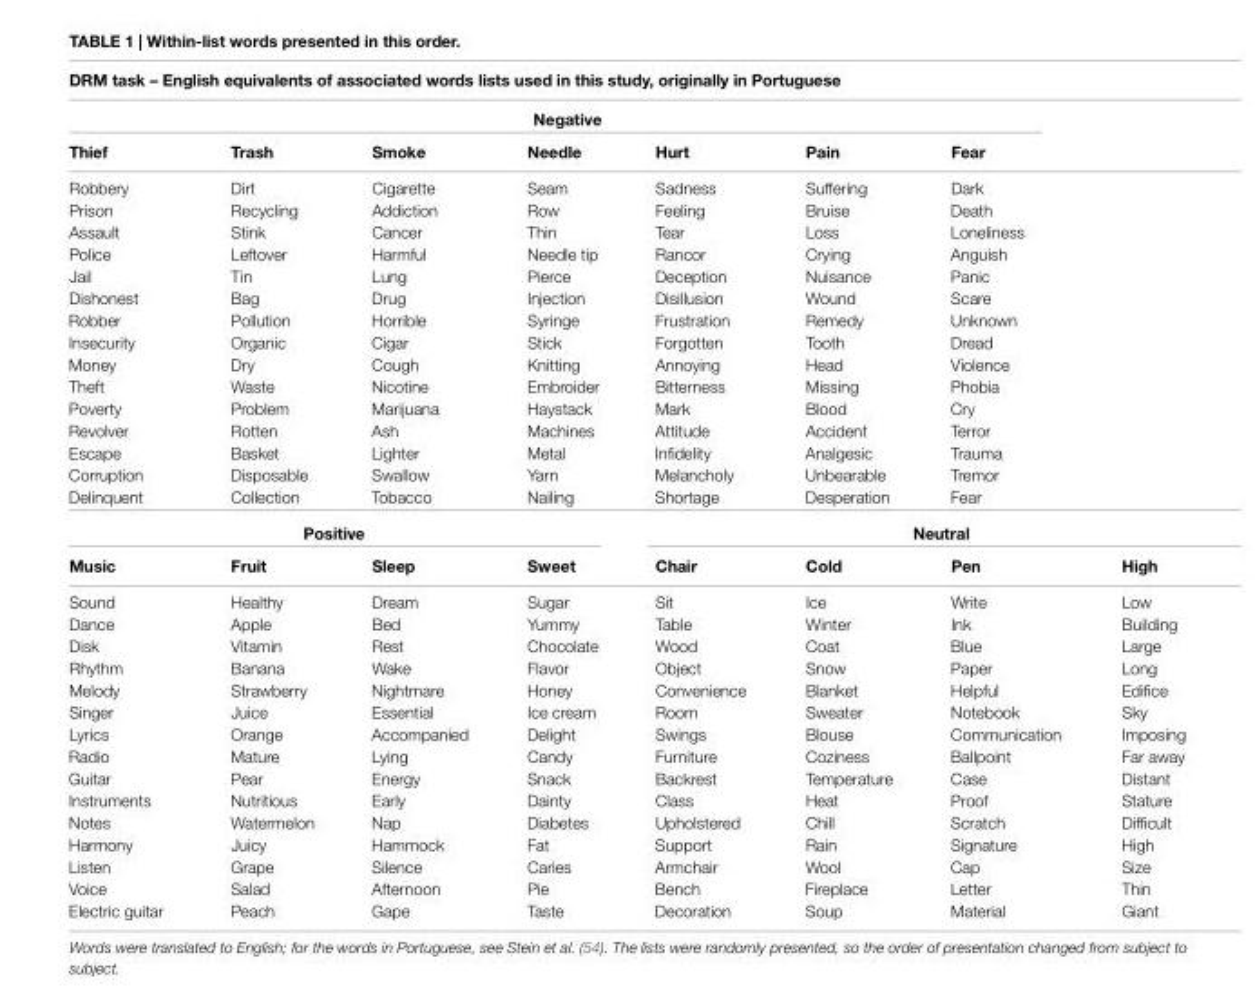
<table><thead><tr><td colspan="8">DrM task – english equivalents of associated words lists used in this study, originally in Portuguese</td></tr><tr><td colspan="7">negative</td><td rowspan="2"></td></tr><tr><td>Thief</td><td>Trash</td><td>smoke</td><td>needle</td><td>hurt</td><td>Pain</td><td>Fear</td></tr></thead><tbody><tr><td>Robbery</td><td>Dirt</td><td>Cigarette</td><td>Seam</td><td>Sadness</td><td>Suffering</td><td>Dark</td><td></td></tr><tr><td>Prison</td><td>Recycling</td><td>Addiction</td><td>Row</td><td>Feeling</td><td>Bruise</td><td>Death</td><td></td></tr><tr><td>Assault</td><td>Stink</td><td>Cancer</td><td>Thin</td><td>Tear</td><td>Loss</td><td>Loneliness</td><td></td></tr><tr><td>Police</td><td>Leftover</td><td>Harmful</td><td>Needle tip</td><td>Rancor</td><td>Crying</td><td>Anguish</td><td></td></tr><tr><td>Jail</td><td>Tin</td><td>Lung</td><td>Pierce</td><td>Deception</td><td>Nuisance</td><td>Panic</td><td></td></tr><tr><td>Dishonest</td><td>Bag</td><td>Drug</td><td>Injection</td><td>Disillusion</td><td>Wound</td><td>Scare</td><td></td></tr><tr><td>Robber</td><td>Pollution</td><td>Horrible</td><td>Syringe</td><td>Frustration</td><td>Remedy</td><td>Unknown</td><td></td></tr><tr><td>Insecurity</td><td>Organic</td><td>Cigar</td><td>Stick</td><td>Forgotten</td><td>Tooth</td><td>Dread</td><td></td></tr><tr><td>Money</td><td>Dry</td><td>Cough</td><td>Knitting</td><td>Annoying</td><td>Head</td><td>Violence</td><td></td></tr><tr><td>Theft</td><td>Waste</td><td>Nicotine</td><td>Embroider</td><td>Bitterness</td><td>Missing</td><td>Phobia</td><td></td></tr><tr><td>Poverty</td><td>Problem</td><td>Marijuana</td><td>Haystack</td><td>Mark</td><td>Blood</td><td>Cry</td><td></td></tr><tr><td>Revolver</td><td>Rotten</td><td>Ash</td><td>Machines</td><td>Attitude</td><td>Accident</td><td>Terror</td><td></td></tr><tr><td>Escape</td><td>Basket</td><td>Lighter</td><td>Metal</td><td>Infidelity</td><td>Analgesic</td><td>Trauma</td><td></td></tr><tr><td>Corruption</td><td>Disposable</td><td>Swallow</td><td>Yarn</td><td>Melancholy</td><td>Unbearable</td><td>Tremor</td><td></td></tr><tr><td>Delinquent</td><td>Collection</td><td>Tobacco</td><td>Nailing</td><td>Shortage</td><td>Desperation</td><td>Fear</td><td></td></tr><tr><td colspan="4">Positive</td><td colspan="4">neutral</td></tr><tr><td>Music</td><td>Fruit</td><td>sleep</td><td>sweet</td><td>chair</td><td>cold</td><td>Pen</td><td>high</td></tr><tr><td>Sound</td><td>Healthy</td><td>Dream</td><td>Sugar</td><td>Sit</td><td>Ice</td><td>Write</td><td>Low</td></tr><tr><td>Dance</td><td>Apple</td><td>Bed</td><td>Yummy</td><td>Table</td><td>Winter</td><td>Ink</td><td>Building</td></tr><tr><td>Disk</td><td>Vitamin</td><td>Rest</td><td>Chocolate</td><td>Wood</td><td>Coat</td><td>Blue</td><td>Large</td></tr><tr><td>Rhythm</td><td>Banana</td><td>Wake</td><td>Flavor</td><td>Object</td><td>Snow</td><td>Paper</td><td>Long</td></tr><tr><td>Melody</td><td>Strawberry</td><td>Nightmare</td><td>Honey</td><td>Convenience</td><td>Blanket</td><td>Helpful</td><td>Edifice</td></tr><tr><td>Singer</td><td>Juice</td><td>Essential</td><td>Ice cream</td><td>Room</td><td>Sweater</td><td>Notebook</td><td>Sky</td></tr><tr><td>Lyrics</td><td>Orange</td><td>Accompanied</td><td>Delight</td><td>Swings</td><td>Blouse</td><td>Communication</td><td>Imposing</td></tr><tr><td>Radio</td><td>Mature</td><td>Lying</td><td>Candy</td><td>Furniture</td><td>Coziness</td><td>Ballpoint</td><td>Far away</td></tr><tr><td>Guitar</td><td>Pear</td><td>Energy</td><td>Snack</td><td>Backrest</td><td>Temperature</td><td>Case</td><td>Distant</td></tr><tr><td>Instruments</td><td>Nutritious</td><td>Early</td><td>Dainty</td><td>Class</td><td>Heat</td><td>Proof</td><td>Stature</td></tr><tr><td>Notes</td><td>Watermelon</td><td>Nap</td><td>Diabetes</td><td>Upholstered</td><td>Chill</td><td>Scratch</td><td>Difficult</td></tr><tr><td>Harmony</td><td>Juicy</td><td>Hammock</td><td>Fat</td><td>Support</td><td>Rain</td><td>Signature</td><td>High</td></tr><tr><td>Listen</td><td>Grape</td><td>Silence</td><td>Caries</td><td>Armchair</td><td>Wool</td><td>Cap</td><td>Size</td></tr><tr><td>Voice</td><td>Salad</td><td>Afternoon</td><td>Pie</td><td>Bench</td><td>Fireplace</td><td>Letter</td><td>Thin</td></tr><tr><td>Electric guitar</td><td>Peach</td><td>Gape</td><td>Taste</td><td>Decoration</td><td>Soup</td><td>Material</td><td>Giant</td></tr></tbody></table>